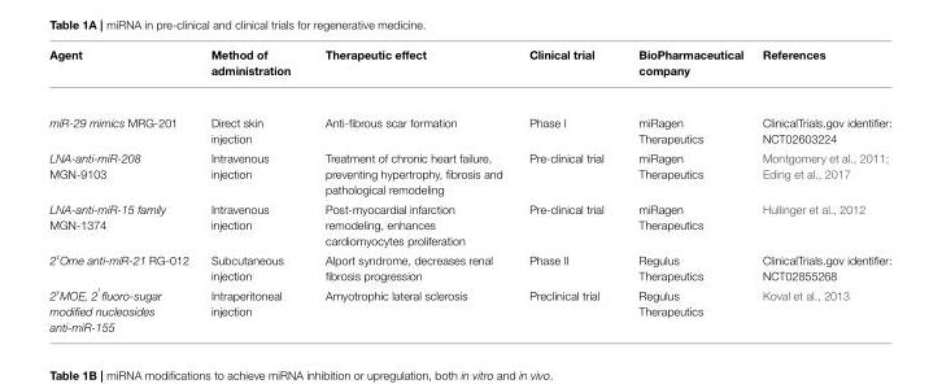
<table><thead><tr><td>Agent</td><td>Method of administration</td><td>Therapeutic effect</td><td>Clinical trial</td><td>BioPharmaceutical company</td><td>References</td></tr></thead><tbody><tr><td>miR-29 mimics MRG-201</td><td>Direct skin injection</td><td>Anti-fibrous scar formation</td><td>Phase I</td><td>miRagen Therapeutics</td><td>ClinicalTrials.gov identifier: NCT02603224</td></tr><tr><td>LNA-anti-miR-208 MGN-9103</td><td>Intravenous injection</td><td>Treatment of chronic heart failure, preventing hypertrophy, fibrosis and pathological remodeling</td><td>Pre-clinical trial</td><td>miRagen Therapeutics</td><td>Montgomery et al., 2011; Eding et al., 2017</td></tr><tr><td>LNA-anti-miR-15 family MGN-1374</td><td>Intravenous injection</td><td>Post-myocardial infarction remodeling, enhances cardiomyocytes proliferation</td><td>Pre-clinical trial</td><td>miRagen Therapeutics</td><td>Hullinger et al., 2012</td></tr><tr><td>2′Ome anti-miR-21 RG-012</td><td>Subcutaneous injection</td><td>Alport syndrome, decreases renal fibrosis progression</td><td>Phase II</td><td>Regulus Therapeutics</td><td>ClinicalTrials.gov identifier: NCT02855268</td></tr><tr><td>2′MOE, 2 ′fluoro-sugar modified nucleosides anti-miR-155</td><td>Intraperitoneal injection</td><td>Amyotrophic lateral sclerosis</td><td>Preclinical trial</td><td>Regulus Therapeutics</td><td>Koval et al., 2013</td></tr></tbody></table>